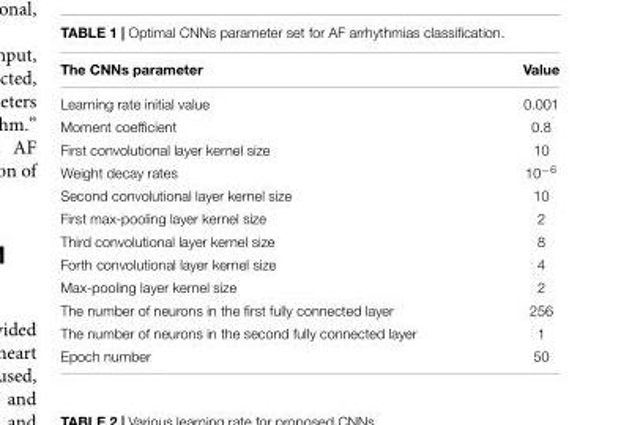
<table><thead><tr><td>The CNNs parameter</td><td>Value</td></tr></thead><tbody><tr><td>Learning rate initial value</td><td>0.001</td></tr><tr><td>Moment coefficient</td><td>0.8</td></tr><tr><td>First convolutional layer kernel size</td><td>10</td></tr><tr><td>Weight decay rates</td><td>10<sup>−6</sup></td></tr><tr><td>Second convolutional layer kernel size</td><td>10</td></tr><tr><td>First max-pooling layer kernel size</td><td>2</td></tr><tr><td>Third convolutional layer kernel size</td><td>8</td></tr><tr><td>Forth convolutional layer kernel size</td><td>4</td></tr><tr><td>Max-pooling layer kernel size</td><td>2</td></tr><tr><td>The number of neurons in the first fully connected layer</td><td>256</td></tr><tr><td>The number of neurons in the second fully connected layer</td><td>1</td></tr><tr><td>Epoch number</td><td>50</td></tr></tbody></table>